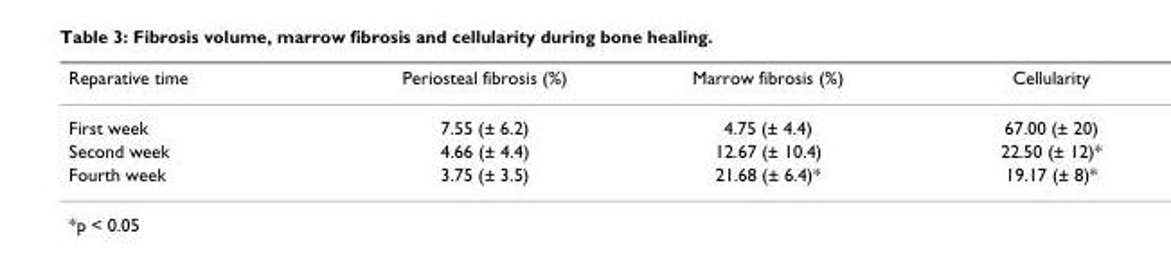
<table><thead><tr><td>Reparative time</td><td>Periosteal fibrosis (%)</td><td>Marrow fibrosis (%)</td><td>Cellularity</td></tr></thead><tbody><tr><td>First week</td><td>7.55 (± 6.2)</td><td>4.75 (± 4.4)</td><td>67.00 (± 20)</td></tr><tr><td>Second week</td><td>4.66 (± 4.4)</td><td>12.67 (± 10.4)</td><td>22.50 (± 12)*</td></tr><tr><td>Fourth week</td><td>3.75 (± 3.5)</td><td>21.68 (± 6.4)*</td><td>19.17 (± 8)*</td></tr></tbody></table>